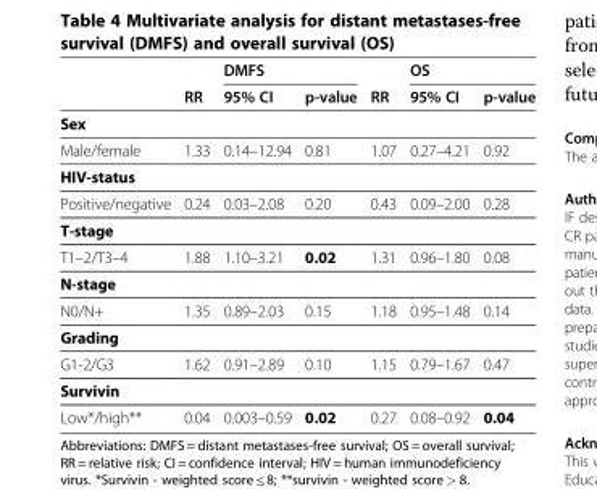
<table><thead><tr><td rowspan="2"></td><td rowspan="2">RR</td><td rowspan="2">DMFS 95% CI</td><td rowspan="2">p-value</td><td rowspan="2">RR</td><td rowspan="2">OS 95% CI</td><td rowspan="2">p-value</td></tr><tr></tr></thead><tbody><tr><td colspan="7">Sex</td></tr><tr><td>Male/female</td><td>1.33</td><td>0.14–12.94</td><td>0.81</td><td>1.07</td><td>0.27–4.21</td><td>0.92</td></tr><tr><td colspan="7">HIV-status</td></tr><tr><td>Positive/negative</td><td>0.24</td><td>0.03–2.08</td><td>0.20</td><td>0.43</td><td>0.09–2.00</td><td>0.28</td></tr><tr><td colspan="7">T-stage</td></tr><tr><td>T1–2/T3–4</td><td>1.88</td><td>1.10–3.21</td><td>0.02</td><td>1.31</td><td>0.96–1.80</td><td>0.08</td></tr><tr><td colspan="7">N-stage</td></tr><tr><td>N0/N+</td><td>1.35</td><td>0.89–2.03</td><td>0.15</td><td>1.18</td><td>0.95–1.48</td><td>0.14</td></tr><tr><td colspan="7">Grading</td></tr><tr><td>G1-2/G3</td><td>1.62</td><td>0.91–2.89</td><td>0.10</td><td>1.15</td><td>0.79–1.67</td><td>0.47</td></tr><tr><td colspan="7">Survivin</td></tr><tr><td>Low*/high**</td><td>0.04</td><td>0.003–0.59</td><td>0.02</td><td>0.27</td><td>0.08–0.92</td><td>0.04</td></tr></tbody></table>